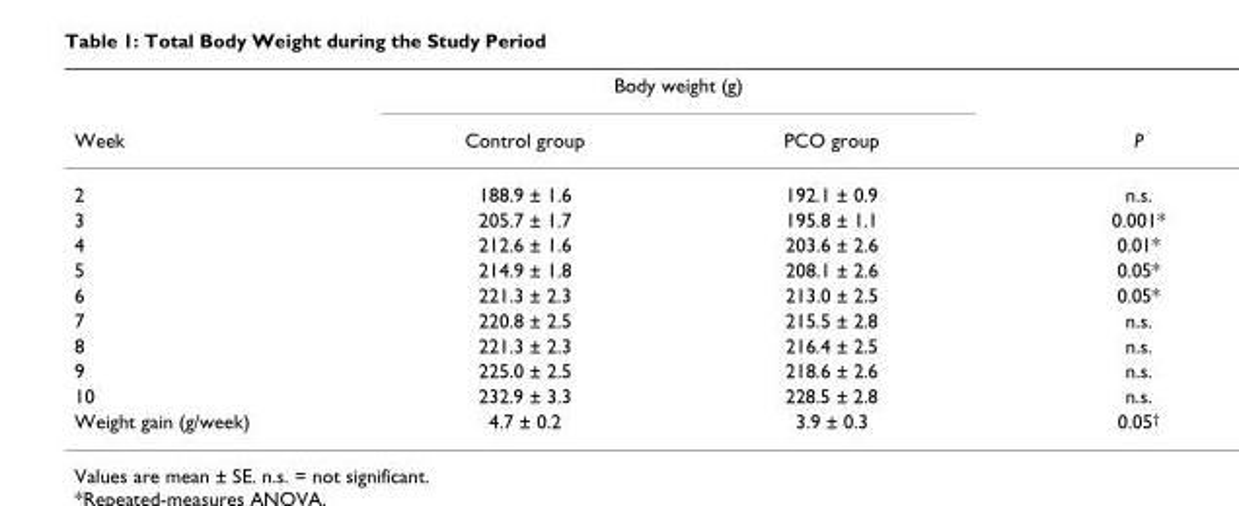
<table><thead><tr><td rowspan="2">Week</td><td colspan="2">Body weight (g)</td><td rowspan="2">P</td></tr><tr><td>Control group</td><td>PCO group</td></tr></thead><tbody><tr><td>2</td><td>188.9 ± 1.6</td><td>192.1 ± 0.9</td><td>n.s.</td></tr><tr><td>3</td><td>205.7 ± 1.7</td><td>195.8 ± 1.1</td><td>0.001*</td></tr><tr><td>4</td><td>212.6 ± 1.6</td><td>203.6 ± 2.6</td><td>0.01*</td></tr><tr><td>5</td><td>214.9 ± 1.8</td><td>208.1 ± 2.6</td><td>0.05*</td></tr><tr><td>6</td><td>221.3 ± 2.3</td><td>213.0 ± 2.5</td><td>0.05*</td></tr><tr><td>7</td><td>220.8 ± 2.5</td><td>215.5 ± 2.8</td><td>n.s.</td></tr><tr><td>8</td><td>221.3 ± 2.3</td><td>216.4 ± 2.5</td><td>n.s.</td></tr><tr><td>9</td><td>225.0 ± 2.5</td><td>218.6 ± 2.6</td><td>n.s.</td></tr><tr><td>10</td><td>232.9 ± 3.3</td><td>228.5 ± 2.8</td><td>n.s.</td></tr><tr><td>Weight gain (g/week)</td><td>4.7 ± 0.2</td><td>3.9 ± 0.3</td><td>0.05<sup>†</sup></td></tr></tbody></table>